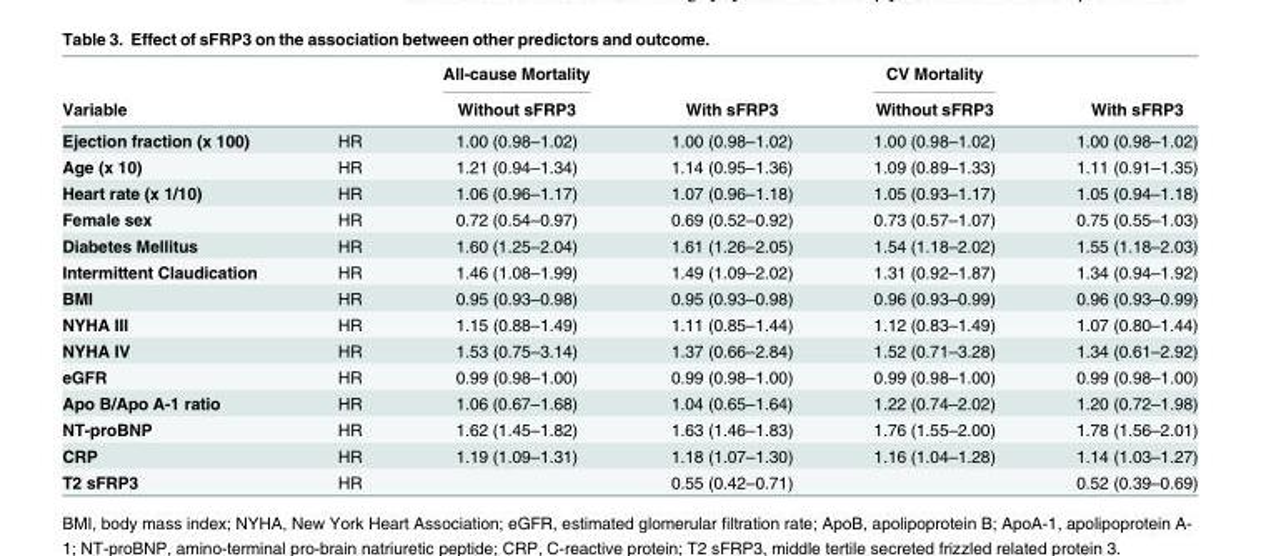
<table><thead><tr><td rowspan="2">Variable</td><td rowspan="2"></td><td rowspan="2">All-cause Mortality Without sFRP3</td><td rowspan="2">With sFRP3</td><td rowspan="2">CV Mortality Without sFRP3</td><td rowspan="2">With sFRP3</td></tr><tr></tr></thead><tbody><tr><td>Ejection fraction (x 100)</td><td>HR</td><td>1.00 (0.98–1.02)</td><td>1.00 (0.98–1.02)</td><td>1.00 (0.98–1.02)</td><td>1.00 (0.98–1.02)</td></tr><tr><td>Age (x 10)</td><td>HR</td><td>1.21 (0.94–1.34)</td><td>1.14 (0.95–1.36)</td><td>1.09 (0.89–1.33)</td><td>1.11 (0.91–1.35)</td></tr><tr><td>Heart rate (x 1/10)</td><td>HR</td><td>1.06 (0.96–1.17)</td><td>1.07 (0.96–1.18)</td><td>1.05 (0.93–1.17)</td><td>1.05 (0.94–1.18)</td></tr><tr><td>Female sex</td><td>HR</td><td>0.72 (0.54–0.97)</td><td>0.69 (0.52–0.92)</td><td>0.73 (0.57–1.07)</td><td>0.75 (0.55–1.03)</td></tr><tr><td>Diabetes Mellitus</td><td>HR</td><td>1.60 (1.25–2.04)</td><td>1.61 (1.26–2.05)</td><td>1.54 (1.18–2.02)</td><td>1.55 (1.18–2.03)</td></tr><tr><td>Intermittent Claudication</td><td>HR</td><td>1.46 (1.08–1.99)</td><td>1.49 (1.09–2.02)</td><td>1.31 (0.92–1.87)</td><td>1.34 (0.94–1.92)</td></tr><tr><td>BMI</td><td>HR</td><td>0.95 (0.93–0.98)</td><td>0.95 (0.93–0.98)</td><td>0.96 (0.93–0.99)</td><td>0.96 (0.93–0.99)</td></tr><tr><td>NYHA III</td><td>HR</td><td>1.15 (0.88–1.49)</td><td>1.11 (0.85–1.44)</td><td>1.12 (0.83–1.49)</td><td>1.07 (0.80–1.44)</td></tr><tr><td>NYHA IV</td><td>HR</td><td>1.53 (0.75–3.14)</td><td>1.37 (0.66–2.84)</td><td>1.52 (0.71–3.28)</td><td>1.34 (0.61–2.92)</td></tr><tr><td>eGFR</td><td>HR</td><td>0.99 (0.98–1.00)</td><td>0.99 (0.98–1.00)</td><td>0.99 (0.98–1.00)</td><td>0.99 (0.98–1.00)</td></tr><tr><td>Apo B/Apo A-1 ratio</td><td>HR</td><td>1.06 (0.67–1.68)</td><td>1.04 (0.65–1.64)</td><td>1.22 (0.74–2.02)</td><td>1.20 (0.72–1.98)</td></tr><tr><td>NT-proBNP</td><td>HR</td><td>1.62 (1.45–1.82)</td><td>1.63 (1.46–1.83)</td><td>1.76 (1.55–2.00)</td><td>1.78 (1.56–2.01)</td></tr><tr><td>CRP</td><td>HR</td><td>1.19 (1.09–1.31)</td><td>1.18 (1.07–1.30)</td><td>1.16 (1.04–1.28)</td><td>1.14 (1.03–1.27)</td></tr><tr><td>T2 sFRP3</td><td>HR</td><td></td><td>0.55 (0.42–0.71)</td><td></td><td>0.52 (0.39–0.69)</td></tr></tbody></table>